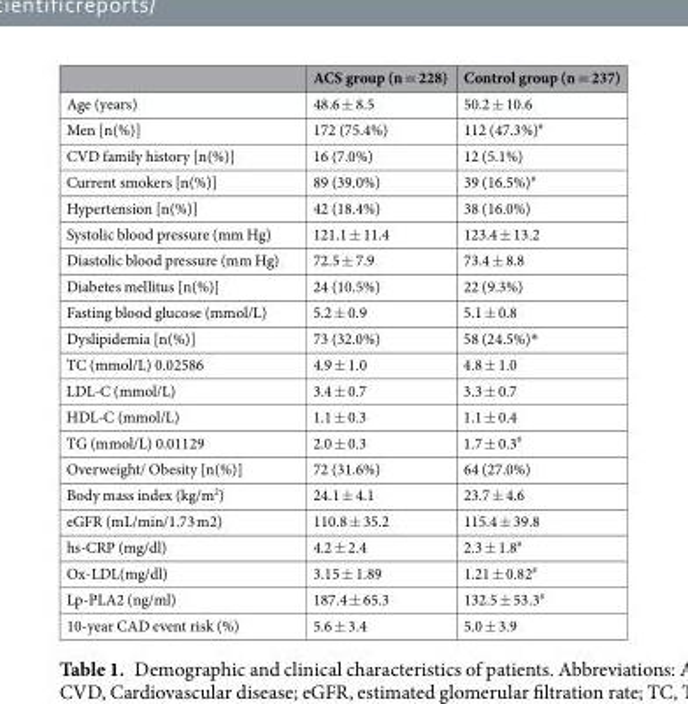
<table><thead><tr><td></td><td>ACS group (n = 228)</td><td>Control group (n = 237)</td></tr></thead><tbody><tr><td>Age (years)</td><td>48.6 ± 8.5</td><td>50.2 ± 10.6</td></tr><tr><td>Men [n(%)]</td><td>172 (75.4%)</td><td>112 (47.3%)<sup>#</sup></td></tr><tr><td>CVD family history [n(%)]</td><td>16 (7.0%)</td><td>12 (5.1%)</td></tr><tr><td>Current smokers [n(%)]</td><td>89 (39.0%)</td><td>39 (16.5%)<sup>#</sup></td></tr><tr><td>Hypertension [n(%)]</td><td>42 (18.4%)</td><td>38 (16.0%)</td></tr><tr><td>Systolic blood pressure (mm Hg)</td><td>121.1 ± 11.4</td><td>123.4 ± 13.2</td></tr><tr><td>Diastolic blood pressure (mm Hg)</td><td>72.5 ± 7.9</td><td>73.4 ± 8.8</td></tr><tr><td>Diabetes mellitus [n(%)]</td><td>24 (10.5%)</td><td>22 (9.3%)</td></tr><tr><td>Fasting blood glucose (mmol/L)</td><td>5.2 ± 0.9</td><td>5.1 ± 0.8</td></tr><tr><td>Dyslipidemia [n(%)]</td><td>73 (32.0%)</td><td>58 (24.5%)*</td></tr><tr><td>TC (mmol/L) 0.02586</td><td>4.9 ± 1.0</td><td>4.8 ± 1.0</td></tr><tr><td>LDL-C (mmol/L)</td><td>3.4 ± 0.7</td><td>3.3 ± 0.7</td></tr><tr><td>HDL-C (mmol/L)</td><td>1.1 ± 0.3</td><td>1.1 ± 0.4</td></tr><tr><td>TG (mmol/L) 0.01129</td><td>2.0 ± 0.3</td><td>1.7 ± 0.3<sup>#</sup></td></tr><tr><td>Overweight/ Obesity [n(%)]</td><td>72 (31.6%)</td><td>64 (27.0%)</td></tr><tr><td>Body mass index (kg/m<sup>2</sup>)</td><td>24.1 ± 4.1</td><td>23.7 ± 4.6</td></tr><tr><td>eGFR (mL/min/1.73 m2)</td><td>110.8 ± 35.2</td><td>115.4 ± 39.8</td></tr><tr><td>hs-CRP (mg/dl)</td><td>4.2 ± 2.4</td><td>2.3 ± 1.8<sup>#</sup></td></tr><tr><td>Ox-LDL(mg/dl)</td><td>3.15 ± 1.89</td><td>1.21 ± 0.82<sup>#</sup></td></tr><tr><td>Lp-PLA2 (ng/ml)</td><td>187.4 ± 65.3</td><td>132.5 ± 53.3<sup>#</sup></td></tr><tr><td>10-year CAD event risk (%)</td><td>5.6 ± 3.4</td><td>5.0 ± 3.9</td></tr></tbody></table>